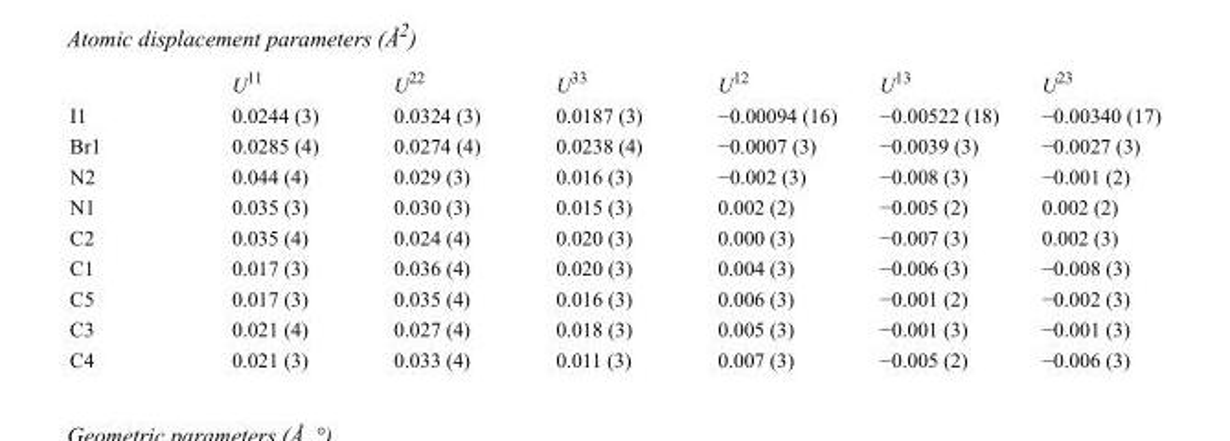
<table><thead><tr><td></td><td>U<sup>11</sup></td><td>U<sup>22</sup></td><td>U<sup>33</sup></td><td>U<sup>12</sup></td><td>U<sup>13</sup></td><td>U<sup>23</sup></td></tr></thead><tbody><tr><td>I1</td><td>0.0244 (3)</td><td>0.0324 (3)</td><td>0.0187 (3)</td><td>−0.00094 (16)</td><td>−0.00522 (18)</td><td>−0.00340 (17)</td></tr><tr><td>Br1</td><td>0.0285 (4)</td><td>0.0274 (4)</td><td>0.0238 (4)</td><td>−0.0007 (3)</td><td>−0.0039 (3)</td><td>−0.0027 (3)</td></tr><tr><td>N2</td><td>0.044 (4)</td><td>0.029 (3)</td><td>0.016 (3)</td><td>−0.002 (3)</td><td>−0.008 (3)</td><td>−0.001 (2)</td></tr><tr><td>N1</td><td>0.035 (3)</td><td>0.030 (3)</td><td>0.015 (3)</td><td>0.002 (2)</td><td>−0.005 (2)</td><td>0.002 (2)</td></tr><tr><td>C2</td><td>0.035 (4)</td><td>0.024 (4)</td><td>0.020 (3)</td><td>0.000 (3)</td><td>−0.007 (3)</td><td>0.002 (3)</td></tr><tr><td>C1</td><td>0.017 (3)</td><td>0.036 (4)</td><td>0.020 (3)</td><td>0.004 (3)</td><td>−0.006 (3)</td><td>−0.008 (3)</td></tr><tr><td>C5</td><td>0.017 (3)</td><td>0.035 (4)</td><td>0.016 (3)</td><td>0.006 (3)</td><td>−0.001 (2)</td><td>−0.002 (3)</td></tr><tr><td>C3</td><td>0.021 (4)</td><td>0.027 (4)</td><td>0.018 (3)</td><td>0.005 (3)</td><td>−0.001 (3)</td><td>−0.001 (3)</td></tr><tr><td>C4</td><td>0.021 (3)</td><td>0.033 (4)</td><td>0.011 (3)</td><td>0.007 (3)</td><td>−0.005 (2)</td><td>−0.006 (3)</td></tr></tbody></table>